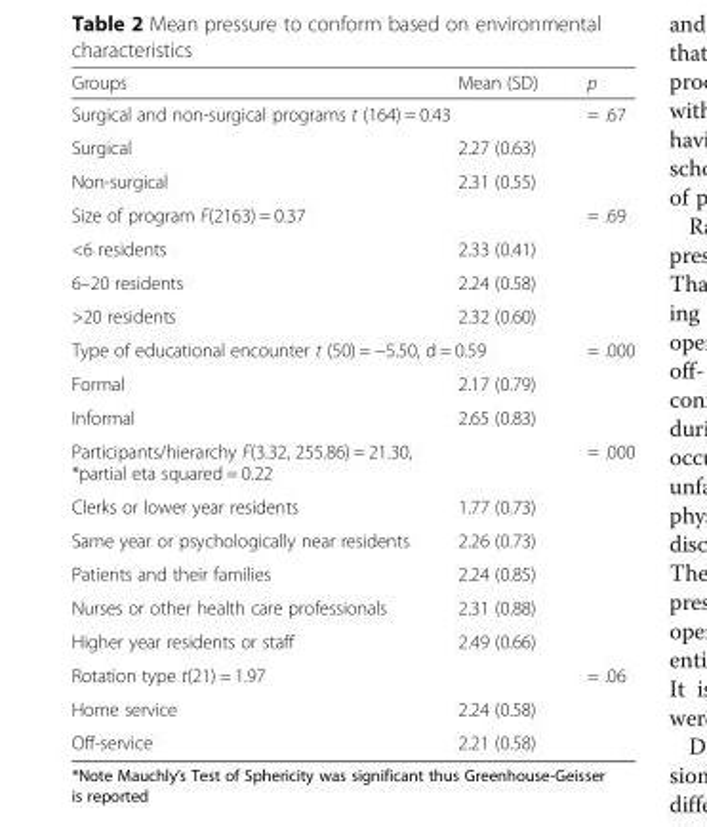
<table><thead><tr><td>Groups</td><td>Mean (SD)</td><td>p</td></tr></thead><tbody><tr><td colspan="2">Surgical and non-surgical programs t (164) = 0.43</td><td>= .67</td></tr><tr><td>Surgical</td><td>2.27 (0.63)</td><td></td></tr><tr><td>Non-surgical</td><td>2.31 (0.55)</td><td></td></tr><tr><td colspan="2">Size of program F(2163) = 0.37</td><td>= .69</td></tr><tr><td>&lt;6 residents</td><td>2.33 (0.41)</td><td></td></tr><tr><td>6–20 residents</td><td>2.24 (0.58)</td><td></td></tr><tr><td>&gt;20 residents</td><td>2.32 (0.60)</td><td></td></tr><tr><td colspan="2">Type of educational encounter t (50) = −5.50, d = 0.59</td><td>= .000</td></tr><tr><td>Formal</td><td>2.17 (0.79)</td><td></td></tr><tr><td>Informal</td><td>2.65 (0.83)</td><td></td></tr><tr><td colspan="2">Participants/hierarchy F(3.32, 255.86) = 21.30, *partial eta squared = 0.22</td><td>= .000</td></tr><tr><td>Clerks or lower year residents</td><td>1.77 (0.73)</td><td></td></tr><tr><td>Same year or psychologically near residents</td><td>2.26 (0.73)</td><td></td></tr><tr><td>Patients and their families</td><td>2.24 (0.85)</td><td></td></tr><tr><td>Nurses or other health care professionals</td><td>2.31 (0.88)</td><td></td></tr><tr><td>Higher year residents or staff</td><td>2.49 (0.66)</td><td></td></tr><tr><td>Rotation type t(21) = 1.97</td><td></td><td>= .06</td></tr><tr><td>Home service</td><td>2.24 (0.58)</td><td></td></tr><tr><td>Off-service</td><td>2.21 (0.58)</td><td></td></tr></tbody></table>